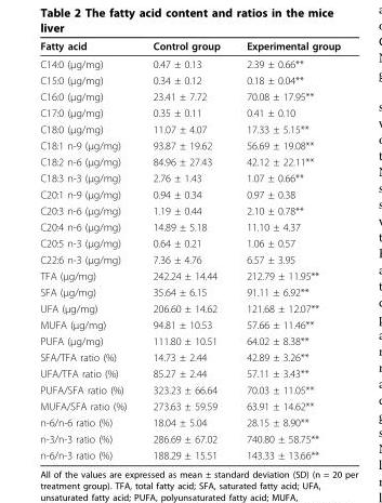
<table><thead><tr><td>Fatty acid</td><td>Control group</td><td>Experimental group</td></tr></thead><tbody><tr><td>C14:0 (μg/mg)</td><td>0.47 ± 0.13</td><td>2.39 ± 0.66**</td></tr><tr><td>C15:0 (μg/mg)</td><td>0.34 ± 0.12</td><td>0.18 ± 0.04**</td></tr><tr><td>C16:0 (μg/mg)</td><td>23.41 ± 7.72</td><td>70.08 ± 17.95**</td></tr><tr><td>C17:0 (μg/mg)</td><td>0.35 ± 0.11</td><td>0.41 ± 0.10</td></tr><tr><td>C18:0 (μg/mg)</td><td>11.07 ± 4.07</td><td>17.33 ± 5.15**</td></tr><tr><td>C18:1 n-9 (μg/mg)</td><td>93.87 ± 19.62</td><td>56.69 ± 19.08**</td></tr><tr><td>C18:2 n-6 (μg/mg)</td><td>84.96 ± 27.43</td><td>42.12 ± 22.11**</td></tr><tr><td>C18:3 n-3 (μg/mg)</td><td>2.76 ± 1.43</td><td>1.07 ± 0.66**</td></tr><tr><td>C20:1 n-9 (μg/mg)</td><td>0.94 ± 0.34</td><td>0.97 ± 0.38</td></tr><tr><td>C20:3 n-6 (μg/mg)</td><td>1.19 ± 0.44</td><td>2.10 ± 0.78**</td></tr><tr><td>C20:4 n-6 (μg/mg)</td><td>14.89 ± 5.18</td><td>11.10 ± 4.37</td></tr><tr><td>C20:5 n-3 (μg/mg)</td><td>0.64 ± 0.21</td><td>1.06 ± 0.57</td></tr><tr><td>C22:6 n-3 (μg/mg)</td><td>7.36 ± 4.76</td><td>6.57 ± 3.95</td></tr><tr><td>TFA (μg/mg)</td><td>242.24 ± 14.44</td><td>212.79 ± 11.95**</td></tr><tr><td>SFA (μg/mg)</td><td>35.64 ± 6.15</td><td>91.11 ± 6.92**</td></tr><tr><td>UFA (μg/mg)</td><td>206.60 ± 14.62</td><td>121.68 ± 12.07**</td></tr><tr><td>MUFA (μg/mg)</td><td>94.81 ± 10.53</td><td>57.66 ± 11.46**</td></tr><tr><td>PUFA (μg/mg)</td><td>111.80 ± 10.51</td><td>64.02 ± 8.38**</td></tr><tr><td>SFA/TFA ratio (%)</td><td>14.73 ± 2.44</td><td>42.89 ± 3.26**</td></tr><tr><td>UFA/TFA ratio (%)</td><td>85.27 ± 2.44</td><td>57.11 ± 3.43**</td></tr><tr><td>PUFA/SFA ratio (%)</td><td>323.23 ± 66.64</td><td>70.03 ± 11.05**</td></tr><tr><td>MUFA/SFA ratio (%)</td><td>273.63 ± 59.59</td><td>63.91 ± 14.62**</td></tr><tr><td>n-6/n-6 ratio (%)</td><td>18.04 ± 5.04</td><td>28.15 ± 8.90**</td></tr><tr><td>n-3/n-3 ratio (%)</td><td>286.69 ± 67.02</td><td>740.80 ± 58.75**</td></tr><tr><td>n-6/n-3 ratio (%)</td><td>188.29 ± 15.51</td><td>143.33 ± 13.66**</td></tr></tbody></table>